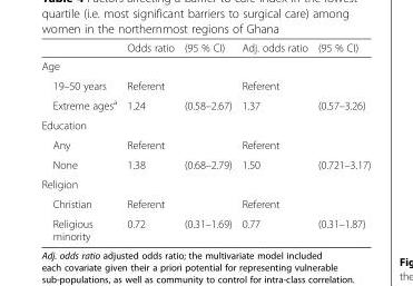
<table><thead><tr><td></td><td>Odds ratio</td><td>(95 % CI)</td><td>Adj. odds ratio</td><td>(95 % CI)</td></tr></thead><tbody><tr><td colspan="5">Age</td></tr><tr><td>19–50 years</td><td>Referent</td><td></td><td>Referent</td><td></td></tr><tr><td>Extreme ages<sup>a</sup></td><td>1.24</td><td>(0.58–2.67)</td><td>1.37</td><td>(0.57–3.26)</td></tr><tr><td colspan="5">Education</td></tr><tr><td>Any</td><td>Referent</td><td></td><td>Referent</td><td></td></tr><tr><td>None</td><td>1.38</td><td>(0.68–2.79)</td><td>1.50</td><td>(0.721–3.17)</td></tr><tr><td colspan="5">Religion</td></tr><tr><td>Christian</td><td>Referent</td><td></td><td>Referent</td><td></td></tr><tr><td>Religious minority</td><td>0.72</td><td>(0.31–1.69)</td><td>0.77</td><td>(0.31–1.87)</td></tr></tbody></table>